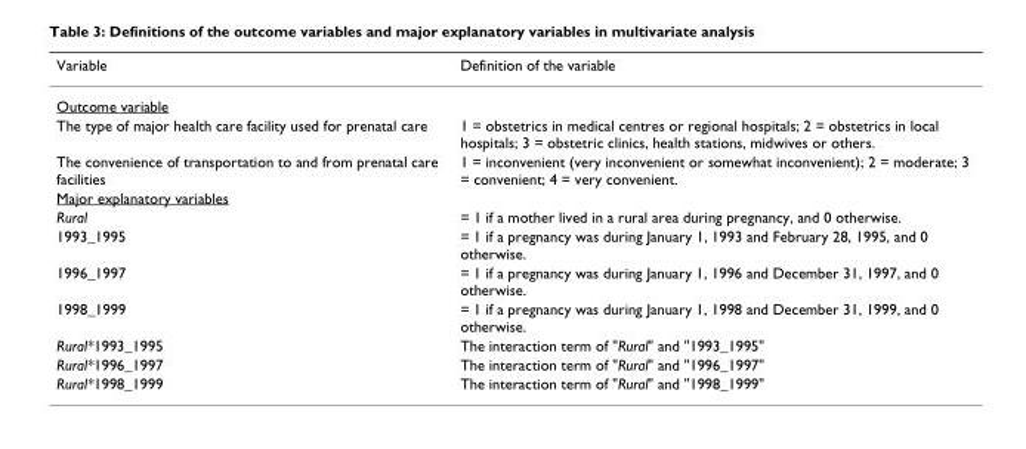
<table><thead><tr><td>Variable</td><td>Definition of the variable</td></tr></thead><tbody><tr><td colspan="2">Outcome variable</td></tr><tr><td>The type of major health care facility used for prenatal care</td><td>1 = obstetrics in medical centres or regional hospitals; 2 = obstetrics in local hospitals; 3 = obstetric clinics, health stations, midwives or others.</td></tr><tr><td>The convenience of transportation to and from prenatal care facilities</td><td>1 = inconvenient (very inconvenient or somewhat inconvenient); 2 = moderate; 3 = convenient; 4 = very convenient.</td></tr><tr><td colspan="2">Major explanatory variables</td></tr><tr><td>Rural</td><td>= 1 if a mother lived in a rural area during pregnancy, and 0 otherwise.</td></tr><tr><td>1993_1995</td><td>= 1 if a pregnancy was during January 1, 1993 and February 28, 1995, and 0 otherwise.</td></tr><tr><td>1996_1997</td><td>= 1 if a pregnancy was during January 1, 1996 and December 31, 1997, and 0 otherwise.</td></tr><tr><td>1998_1999</td><td>= 1 if a pregnancy was during January 1, 1998 and December 31, 1999, and 0 otherwise.</td></tr><tr><td>Rural*1993_1995</td><td>The interaction term of &quot;Rural&quot; and &quot;1993_1995&quot;</td></tr><tr><td>Rural*1996_1997</td><td>The interaction term of &quot;Rural&quot; and &quot;1996_1997&quot;</td></tr><tr><td>Rural*1998_1999</td><td>The interaction term of &quot;Rural&quot; and &quot;1998_1999&quot;</td></tr></tbody></table>